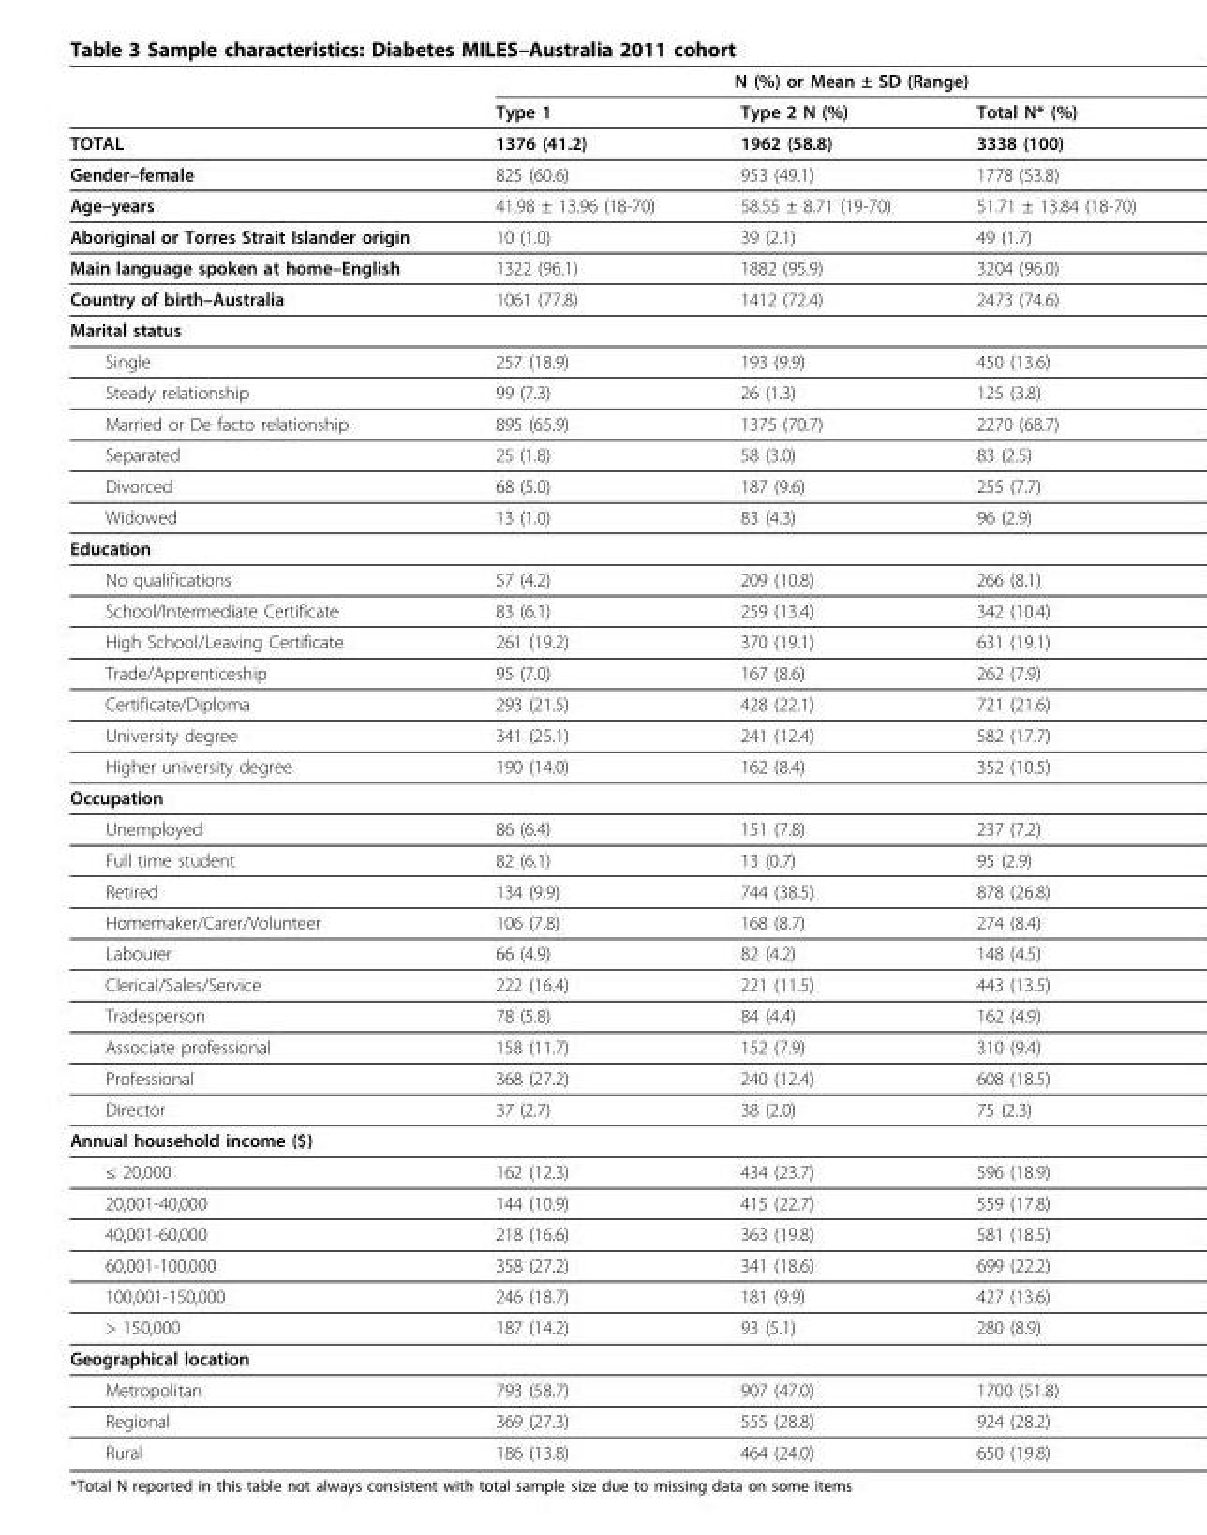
<table><thead><tr><td rowspan="2"></td><td colspan="3">N (%) or Mean ± SD (Range)</td></tr><tr><td>Type 1</td><td>Type 2 N (%)</td><td>Total N* (%)</td></tr></thead><tbody><tr><td>TOTAL</td><td>1376 (41.2)</td><td>1962 (58.8)</td><td>3338 (100)</td></tr><tr><td>Gender–female</td><td>825 (60.6)</td><td>953 (49.1)</td><td>1778 (53.8)</td></tr><tr><td>Age–years</td><td>41.98 ± 13.96 (18-70)</td><td>58.55 ± 8.71 (19-70)</td><td>51.71 ± 13.84 (18-70)</td></tr><tr><td>Aboriginal or Torres Strait Islander origin</td><td>10 (1.0)</td><td>39 (2.1)</td><td>49 (1.7)</td></tr><tr><td>Main language spoken at home–English</td><td>1322 (96.1)</td><td>1882 (95.9)</td><td>3204 (96.0)</td></tr><tr><td>Country of birth–Australia</td><td>1061 (77.8)</td><td>1412 (72.4)</td><td>2473 (74.6)</td></tr><tr><td colspan="4">Marital status</td></tr><tr><td>Single</td><td>257 (18.9)</td><td>193 (9.9)</td><td>450 (13.6)</td></tr><tr><td>Steady relationship</td><td>99 (7.3)</td><td>26 (1.3)</td><td>125 (3.8)</td></tr><tr><td>Married or De facto relationship</td><td>895 (65.9)</td><td>1375 (70.7)</td><td>2270 (68.7)</td></tr><tr><td>Separated</td><td>25 (1.8)</td><td>58 (3.0)</td><td>83 (2.5)</td></tr><tr><td>Divorced</td><td>68 (5.0)</td><td>187 (9.6)</td><td>255 (7.7)</td></tr><tr><td>Widowed</td><td>13 (1.0)</td><td>83 (4.3)</td><td>96 (2.9)</td></tr><tr><td colspan="4">Education</td></tr><tr><td>No qualifications</td><td>57 (4.2)</td><td>209 (10.8)</td><td>266 (8.1)</td></tr><tr><td>School/Intermediate Certificate</td><td>83 (6.1)</td><td>259 (13.4)</td><td>342 (10.4)</td></tr><tr><td>High School/Leaving Certificate</td><td>261 (19.2)</td><td>370 (19.1)</td><td>631 (19.1)</td></tr><tr><td>Trade/Apprenticeship</td><td>95 (7.0)</td><td>167 (8.6)</td><td>262 (7.9)</td></tr><tr><td>Certificate/Diploma</td><td>293 (21.5)</td><td>428 (22.1)</td><td>721 (21.6)</td></tr><tr><td>University degree</td><td>341 (25.1)</td><td>241 (12.4)</td><td>582 (17.7)</td></tr><tr><td>Higher university degree</td><td>190 (14.0)</td><td>162 (8.4)</td><td>352 (10.5)</td></tr><tr><td colspan="4">Occupation</td></tr><tr><td>Unemployed</td><td>86 (6.4)</td><td>151 (7.8)</td><td>237 (7.2)</td></tr><tr><td>Full time student</td><td>82 (6.1)</td><td>13 (0.7)</td><td>95 (2.9)</td></tr><tr><td>Retired</td><td>134 (9.9)</td><td>744 (38.5)</td><td>878 (26.8)</td></tr><tr><td>Homemaker/Carer/Volunteer</td><td>106 (7.8)</td><td>168 (8.7)</td><td>274 (8.4)</td></tr><tr><td>Labourer</td><td>66 (4.9)</td><td>82 (4.2)</td><td>148 (4.5)</td></tr><tr><td>Clerical/Sales/Service</td><td>222 (16.4)</td><td>221 (11.5)</td><td>443 (13.5)</td></tr><tr><td>Tradesperson</td><td>78 (5.8)</td><td>84 (4.4)</td><td>162 (4.9)</td></tr><tr><td>Associate professional</td><td>158 (11.7)</td><td>152 (7.9)</td><td>310 (9.4)</td></tr><tr><td>Professional</td><td>368 (27.2)</td><td>240 (12.4)</td><td>608 (18.5)</td></tr><tr><td>Director</td><td>37 (2.7)</td><td>38 (2.0)</td><td>75 (2.3)</td></tr><tr><td colspan="4">Annual household income ($)</td></tr><tr><td>≤ 20,000</td><td>162 (12.3)</td><td>434 (23.7)</td><td>596 (18.9)</td></tr><tr><td>20,001-40,000</td><td>144 (10.9)</td><td>415 (22.7)</td><td>559 (17.8)</td></tr><tr><td>40,001-60,000</td><td>218 (16.6)</td><td>363 (19.8)</td><td>581 (18.5)</td></tr><tr><td>60,001-100,000</td><td>358 (27.2)</td><td>341 (18.6)</td><td>699 (22.2)</td></tr><tr><td>100,001-150,000</td><td>246 (18.7)</td><td>181 (9.9)</td><td>427 (13.6)</td></tr><tr><td>&gt; 150,000</td><td>187 (14.2)</td><td>93 (5.1)</td><td>280 (8.9)</td></tr><tr><td colspan="4">Geographical location</td></tr><tr><td>Metropolitan</td><td>793 (58.7)</td><td>907 (47.0)</td><td>1700 (51.8)</td></tr><tr><td>Regional</td><td>369 (27.3)</td><td>555 (28.8)</td><td>924 (28.2)</td></tr><tr><td>Rural</td><td>186 (13.8)</td><td>464 (24.0)</td><td>650 (19.8)</td></tr></tbody></table>